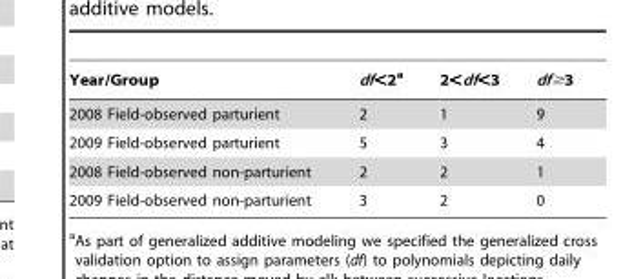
<table><thead><tr><td>Year/Group</td><td>df&lt;2<sup>a</sup></td><td>2&lt;df&lt;3</td><td>df≥3</td></tr></thead><tbody><tr><td>2008 Field-observed parturient</td><td>2</td><td>1</td><td>9</td></tr><tr><td>2009 Field-observed parturient</td><td>5</td><td>3</td><td>4</td></tr><tr><td>2008 Field-observed non-parturient</td><td>2</td><td>2</td><td>1</td></tr><tr><td>2009 Field-observed non-parturient</td><td>3</td><td>2</td><td>0</td></tr></tbody></table>